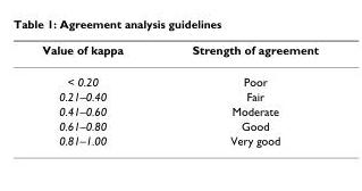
<table><thead><tr><td>Value of kappa</td><td>Strength of agreement</td></tr></thead><tbody><tr><td>&lt; 0.20</td><td>Poor</td></tr><tr><td>0.21–0.40</td><td>Fair</td></tr><tr><td>0.41–0.60</td><td>Moderate</td></tr><tr><td>0.61–0.80</td><td>Good</td></tr><tr><td>0.81–1.00</td><td>Very good</td></tr></tbody></table>